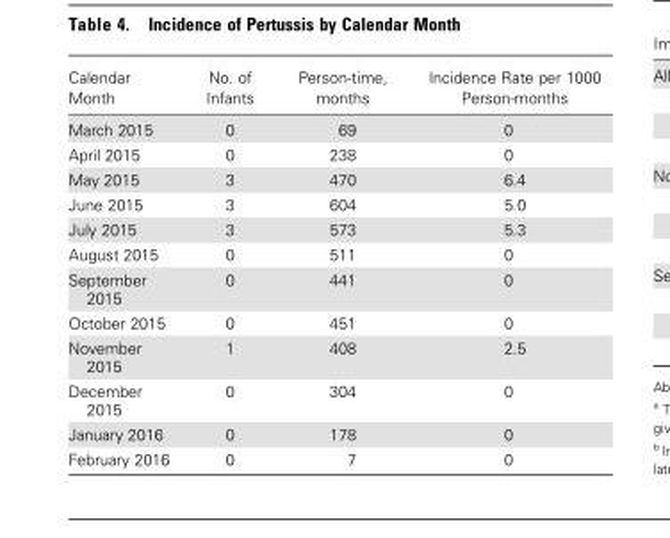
<table><thead><tr><td>Calendar Month</td><td>No. of Infants</td><td>Person-time, months</td><td>Incidence Rate per 1000 Person-months</td></tr></thead><tbody><tr><td>March 2015</td><td>0</td><td>69</td><td>0</td></tr><tr><td>April 2015</td><td>0</td><td>238</td><td>0</td></tr><tr><td>May 2015</td><td>3</td><td>470</td><td>6.4</td></tr><tr><td>June 2015</td><td>3</td><td>604</td><td>5.0</td></tr><tr><td>July 2015</td><td>3</td><td>573</td><td>5.3</td></tr><tr><td>August 2015</td><td>0</td><td>511</td><td>0</td></tr><tr><td>September 2015</td><td>0</td><td>441</td><td>0</td></tr><tr><td>October 2015</td><td>0</td><td>451</td><td>0</td></tr><tr><td>November 2015</td><td>1</td><td>408</td><td>2.5</td></tr><tr><td>December 2015</td><td>0</td><td>304</td><td>0</td></tr><tr><td>January 2016</td><td>0</td><td>178</td><td>0</td></tr><tr><td>February 2016</td><td>0</td><td>7</td><td>0</td></tr></tbody></table>